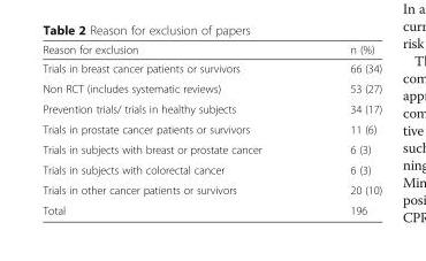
<table><thead><tr><td>Reason for exclusion</td><td>n (%)</td></tr></thead><tbody><tr><td>Trials in breast cancer patients or survivors</td><td>66 (34)</td></tr><tr><td>Non RCT (includes systematic reviews)</td><td>53 (27)</td></tr><tr><td>Prevention trials/ trials in healthy subjects</td><td>34 (17)</td></tr><tr><td>Trials in prostate cancer patients or survivors</td><td>11 (6)</td></tr><tr><td>Trials in subjects with breast or prostate cancer</td><td>6 (3)</td></tr><tr><td>Trials in subjects with colorectal cancer</td><td>6 (3)</td></tr><tr><td>Trials in other cancer patients or survivors</td><td>20 (10)</td></tr><tr><td>Total</td><td>196</td></tr></tbody></table>